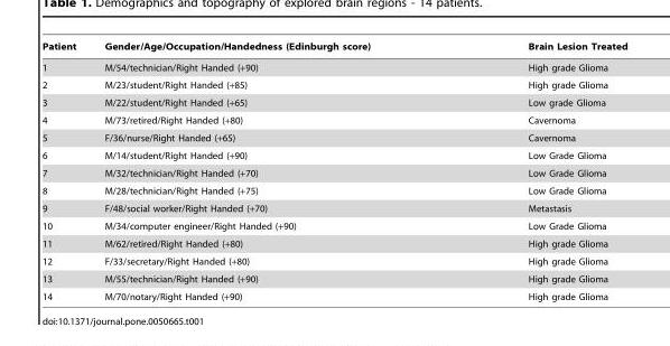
<table><thead><tr><td>Patient</td><td>Gender/Age/Occupation/Handedness (Edinburgh score)</td><td>Brain Lesion Treated</td></tr></thead><tbody><tr><td>1</td><td>M/54/technician/Right Handed (+90)</td><td>High grade Glioma</td></tr><tr><td>2</td><td>M/23/student/Right Handed (+85)</td><td>High grade Glioma</td></tr><tr><td>3</td><td>M/22/student/Right Handed (+65)</td><td>Low grade Glioma</td></tr><tr><td>4</td><td>M/73/retired/Right Handed (+80)</td><td>Cavernoma</td></tr><tr><td>5</td><td>F/36/nurse/Right Handed (+65)</td><td>Cavernoma</td></tr><tr><td>6</td><td>M/14/student/Right Handed (+90)</td><td>Low Grade Glioma</td></tr><tr><td>7</td><td>M/32/technician/Right Handed (+70)</td><td>Low Grade Glioma</td></tr><tr><td>8</td><td>M/28/technician/Right Handed (+75)</td><td>Low Grade Glioma</td></tr><tr><td>9</td><td>F/48/social worker/Right Handed (+70)</td><td>Metastasis</td></tr><tr><td>10</td><td>M/34/computer engineer/Right Handed (+90)</td><td>Low Grade Glioma</td></tr><tr><td>11</td><td>M/62/retired/Right Handed (+80)</td><td>High grade Glioma</td></tr><tr><td>12</td><td>F/33/secretary/Right Handed (+80)</td><td>High grade Glioma</td></tr><tr><td>13</td><td>M/55/technician/Right Handed (+90)</td><td>High grade Glioma</td></tr><tr><td>14</td><td>M/70/notary/Right Handed (+90)</td><td>High grade Glioma</td></tr></tbody></table>